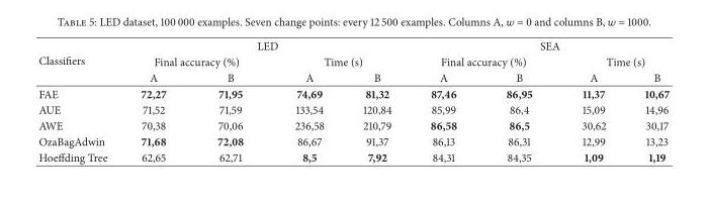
<table><thead><tr><td rowspan="3">Classifiers</td><td colspan="4">LED</td><td colspan="4">SEA</td></tr><tr><td colspan="2">Final accuracy (%)</td><td colspan="2">Time (s)</td><td colspan="2">Final accuracy (%)</td><td colspan="2">Time (s)</td></tr><tr><td>A</td><td>B</td><td>A</td><td>B</td><td>A</td><td>B</td><td>A</td><td>B</td></tr></thead><tbody><tr><td>FAE</td><td>72,27</td><td>71,95</td><td>74,69</td><td>81,32</td><td>87,46</td><td>86,95</td><td>11,37</td><td>10,67</td></tr><tr><td>AUE</td><td>71,52</td><td>71,59</td><td>133,54</td><td>120,84</td><td>85,99</td><td>86,4</td><td>15,09</td><td>14,96</td></tr><tr><td>AWE</td><td>70,38</td><td>70,06</td><td>236,58</td><td>210,79</td><td>86,58</td><td>86,5</td><td>30,62</td><td>30,17</td></tr><tr><td>OzaBagAdwin</td><td>71,68</td><td>72,08</td><td>86,67</td><td>91,37</td><td>86,13</td><td>86,31</td><td>12,99</td><td>13,23</td></tr><tr><td>Hoeffding Tree</td><td>62,65</td><td>62,71</td><td>8,5</td><td>7,92</td><td>84,31</td><td>84,35</td><td>1,09</td><td>1,19</td></tr></tbody></table>